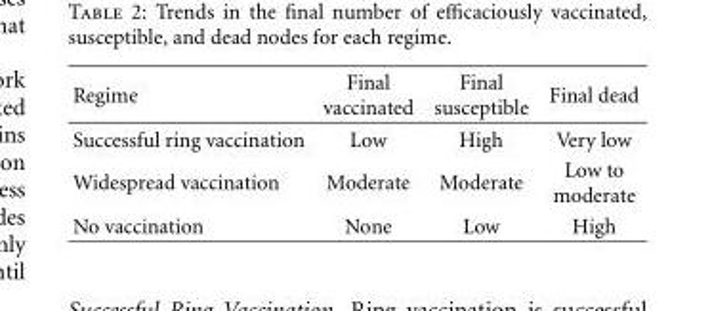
<table><thead><tr><td>Regime</td><td>Final vaccinated</td><td>Final susceptible</td><td>Final dead</td></tr></thead><tbody><tr><td>Successful ring vaccination</td><td>Low</td><td>High</td><td>Very low</td></tr><tr><td>Widespread vaccination</td><td>Moderate</td><td>Moderate</td><td>Low to moderate</td></tr><tr><td>No vaccination</td><td>None</td><td>Low</td><td>High</td></tr></tbody></table>